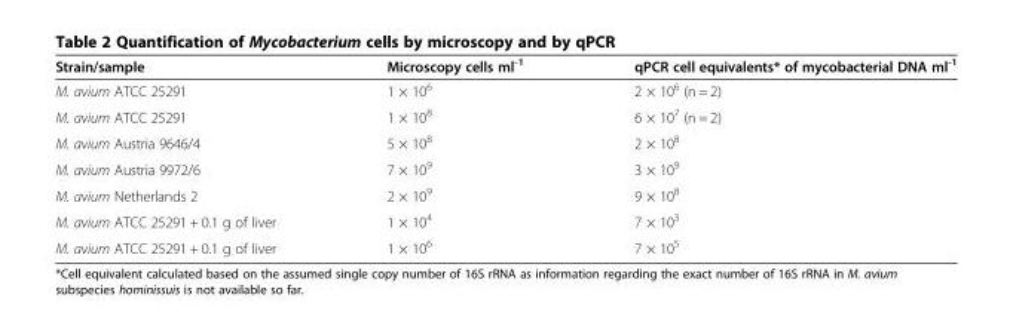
<table><thead><tr><td>Strain/sample</td><td>Microscopy cells ml<sup>-1</sup></td><td>qPCR cell equivalents* of mycobacterial DNA ml<sup>-1</sup></td></tr></thead><tbody><tr><td>M. avium ATCC 25291</td><td>1 × 10<sup>6</sup></td><td>2 × 10<sup>6</sup> (n = 2)</td></tr><tr><td>M. avium ATCC 25291</td><td>1 × 10<sup>8</sup></td><td>6 × 10<sup>7</sup> (n = 2)</td></tr><tr><td>M. avium Austria 9646/4</td><td>5 × 10<sup>8</sup></td><td>2 × 10<sup>8</sup></td></tr><tr><td>M. avium Austria 9972/6</td><td>7 × 10<sup>9</sup></td><td>3 × 10<sup>9</sup></td></tr><tr><td>M. avium Netherlands 2</td><td>2 × 10<sup>9</sup></td><td>9 × 10<sup>8</sup></td></tr><tr><td>M. avium ATCC 25291 + 0.1 g of liver</td><td>1 × 10<sup>4</sup></td><td>7 × 10<sup>3</sup></td></tr><tr><td>M. avium ATCC 25291 + 0.1 g of liver</td><td>1 × 10<sup>6</sup></td><td>7 × 10<sup>5</sup></td></tr></tbody></table>